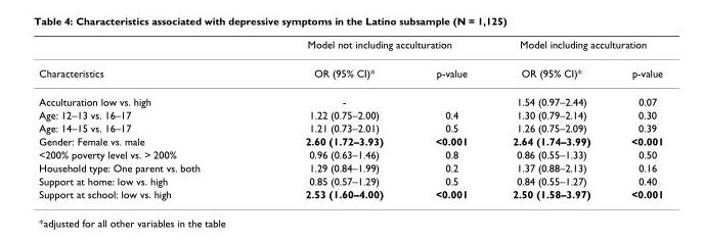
<table><thead><tr><td rowspan="2">Characteristics</td><td colspan="2">Model not including acculturation</td><td colspan="2">Model including acculturation</td></tr><tr><td>OR (95% CI)*</td><td>p-value</td><td>OR (95% CI)*</td><td>p-value</td></tr></thead><tbody><tr><td>Acculturation low vs. high</td><td>-</td><td></td><td>1.54 (0.97–2.44)</td><td>0.07</td></tr><tr><td>Age: 12–13 vs. 16–17</td><td>1.22 (0.75–2.00)</td><td>0.4</td><td>1.30 (0.79–2.14)</td><td>0.30</td></tr><tr><td>Age: 14–15 vs. 16–17</td><td>1.21 (0.73–2.01)</td><td>0.5</td><td>1.26 (0.75–2.09)</td><td>0.39</td></tr><tr><td>Gender: Female vs. male</td><td>2.60 (1.72–3.93)</td><td>&lt;0.001</td><td>2.64 (1.74–3.99)</td><td>&lt;0.001</td></tr><tr><td>&lt;200% poverty level vs. &gt; 200%</td><td>0.96 (0.63–1.46)</td><td>0.8</td><td>0.86 (0.55–1.33)</td><td>0.50</td></tr><tr><td>Household type: One parent vs. both</td><td>1.29 (0.84–1.99)</td><td>0.2</td><td>1.37 (0.88–2.13)</td><td>0.16</td></tr><tr><td>Support at home: low vs. high</td><td>0.85 (0.57–1.29)</td><td>0.5</td><td>0.84 (0.55–1.27)</td><td>0.40</td></tr><tr><td>Support at school: low vs. high</td><td>2.53 (1.60–4.00)</td><td>&lt;0.001</td><td>2.50 (1.58–3.97)</td><td>&lt;0.001</td></tr></tbody></table>